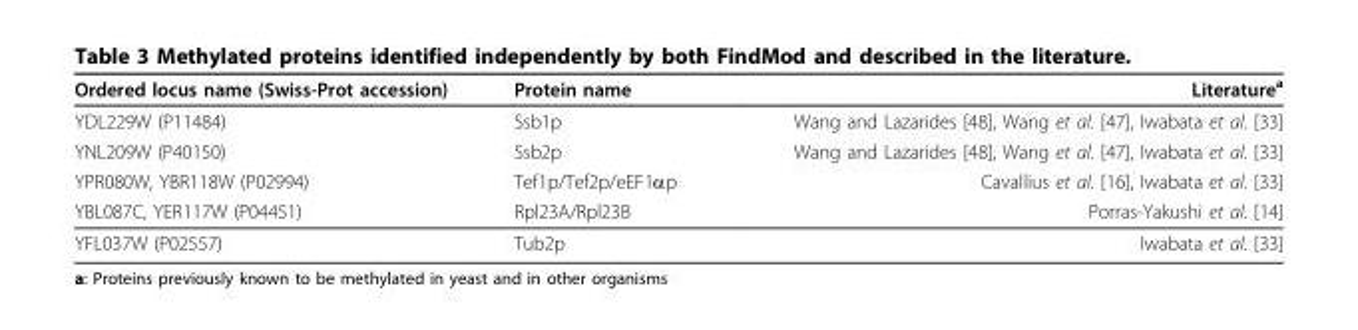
<table><thead><tr><td>Ordered locus name (Swiss-Prot accession)</td><td>Protein name</td><td>Literature<sup>a</sup></td></tr></thead><tbody><tr><td>YDL229W (P11484)</td><td>Ssb1p</td><td>Wang and Lazarides [48], Wang et al. [47], Iwabata et al. [33]</td></tr><tr><td>YNL209W (P40150)</td><td>Ssb2p</td><td>Wang and Lazarides [48], Wang et al. [47], Iwabata et al. [33]</td></tr><tr><td>YPR080W, YBR118W (P02994)</td><td>Tef1p/Tef2p/eEF1αp</td><td>Cavallius et al. [16], Iwabata et al. [33]</td></tr><tr><td>YBL087C, YER117W (P04451)</td><td>Rpl23A/Rpl23B</td><td>Porras-Yakushi et al. [14]</td></tr><tr><td>YFL037W (P02557)</td><td>Tub2p</td><td>Iwabata et al. [33]</td></tr></tbody></table>